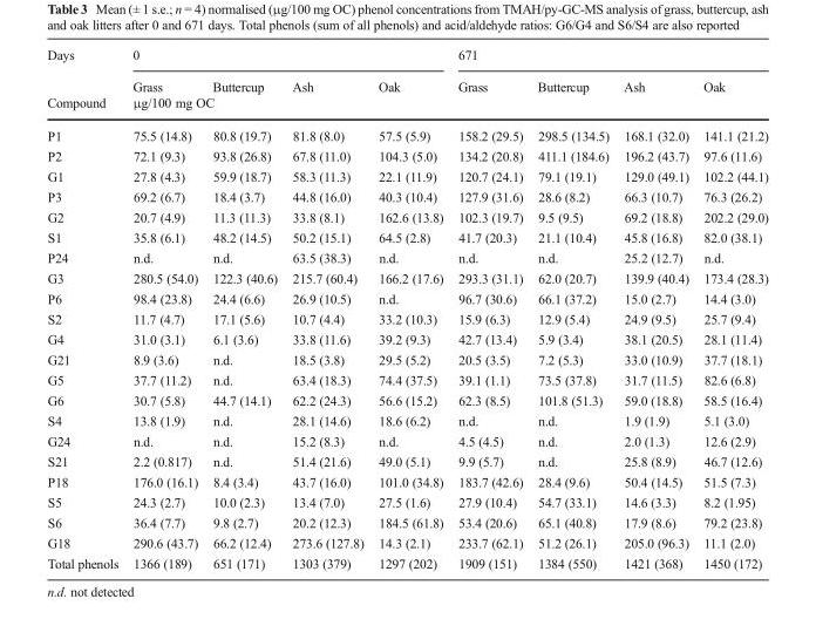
<table><thead><tr><td rowspan="3">Days Compound</td><td colspan="4">0</td><td colspan="4">671</td></tr><tr><td>Grass</td><td>Buttercup</td><td>Ash</td><td>Oak</td><td>Grass</td><td>Buttercup</td><td>Ash</td><td>Oak</td></tr><tr><td colspan="8">μg/100 mg OC</td></tr></thead><tbody><tr><td>P1</td><td>75.5 (14.8)</td><td>80.8 (19.7)</td><td>81.8 (8.0)</td><td>57.5 (5.9)</td><td>158.2 (29.5)</td><td>298.5 (134.5)</td><td>168.1 (32.0)</td><td>141.1 (21.2)</td></tr><tr><td>P2</td><td>72.1 (9.3)</td><td>93.8 (26.8)</td><td>67.8 (11.0)</td><td>104.3 (5.0)</td><td>134.2 (20.8)</td><td>411.1 (184.6)</td><td>196.2 (43.7)</td><td>97.6 (11.6)</td></tr><tr><td>G1</td><td>27.8 (4.3)</td><td>59.9 (18.7)</td><td>58.3 (11.3)</td><td>22.1 (11.9)</td><td>120.7 (24.1)</td><td>79.1 (19.1)</td><td>129.0 (49.1)</td><td>102.2 (44.1)</td></tr><tr><td>P3</td><td>69.2 (6.7)</td><td>18.4 (3.7)</td><td>44.8 (16.0)</td><td>40.3 (10.4)</td><td>127.9 (31.6)</td><td>28.6 (8.2)</td><td>66.3 (10.7)</td><td>76.3 (26.2)</td></tr><tr><td>G2</td><td>20.7 (4.9)</td><td>11.3 (11.3)</td><td>33.8 (8.1)</td><td>162.6 (13.8)</td><td>102.3 (19.7)</td><td>9.5 (9.5)</td><td>69.2 (18.8)</td><td>202.2 (29.0)</td></tr><tr><td>S1</td><td>35.8 (6.1)</td><td>48.2 (14.5)</td><td>50.2 (15.1)</td><td>64.5 (2.8)</td><td>41.7 (20.3)</td><td>21.1 (10.4)</td><td>45.8 (16.8)</td><td>82.0 (38.1)</td></tr><tr><td>P24</td><td>n.d.</td><td>n.d.</td><td>63.5 (38.3)</td><td>n.d.</td><td>n.d.</td><td>n.d.</td><td>25.2 (12.7)</td><td>n.d.</td></tr><tr><td>G3</td><td>280.5 (54.0)</td><td>122.3 (40.6)</td><td>215.7 (60.4)</td><td>166.2 (17.6)</td><td>293.3 (31.1)</td><td>62.0 (20.7)</td><td>139.9 (40.4)</td><td>173.4 (28.3)</td></tr><tr><td>P6</td><td>98.4 (23.8)</td><td>24.4 (6.6)</td><td>26.9 (10.5)</td><td>n.d.</td><td>96.7 (30.6)</td><td>66.1 (37.2)</td><td>15.0 (2.7)</td><td>14.4 (3.0)</td></tr><tr><td>S2</td><td>11.7 (4.7)</td><td>17.1 (5.6)</td><td>10.7 (4.4)</td><td>33.2 (10.3)</td><td>15.9 (6.3)</td><td>12.9 (5.4)</td><td>24.9 (9.5)</td><td>25.7 (9.4)</td></tr><tr><td>G4</td><td>31.0 (3.1)</td><td>6.1 (3.6)</td><td>33.8 (11.6)</td><td>39.2 (9.3)</td><td>42.7 (13.4)</td><td>5.9 (3.4)</td><td>38.1 (20.5)</td><td>28.1 (11.4)</td></tr><tr><td>G21</td><td>8.9 (3.6)</td><td>n.d.</td><td>18.5 (3.8)</td><td>29.5 (5.2)</td><td>20.5 (3.5)</td><td>7.2 (5.3)</td><td>33.0 (10.9)</td><td>37.7 (18.1)</td></tr><tr><td>G5</td><td>37.7 (11.2)</td><td>n.d.</td><td>63.4 (18.3)</td><td>74.4 (37.5)</td><td>39.1 (1.1)</td><td>73.5 (37.8)</td><td>31.7 (11.5)</td><td>82.6 (6.8)</td></tr><tr><td>G6</td><td>30.7 (5.8)</td><td>44.7 (14.1)</td><td>62.2 (24.3)</td><td>56.6 (15.2)</td><td>62.3 (8.5)</td><td>101.8 (51.3)</td><td>59.0 (18.8)</td><td>58.5 (16.4)</td></tr><tr><td>S4</td><td>13.8 (1.9)</td><td>n.d.</td><td>28.1 (14.6)</td><td>18.6 (6.2)</td><td>n.d.</td><td>n.d.</td><td>1.9 (1.9)</td><td>5.1 (3.0)</td></tr><tr><td>G24</td><td>n.d.</td><td>n.d.</td><td>15.2 (8.3)</td><td>n.d.</td><td>4.5 (4.5)</td><td>n.d.</td><td>2.0 (1.3)</td><td>12.6 (2.9)</td></tr><tr><td>S21</td><td>2.2 (0.817)</td><td>n.d.</td><td>51.4 (21.6)</td><td>49.0 (5.1)</td><td>9.9 (5.7)</td><td>n.d.</td><td>25.8 (8.9)</td><td>46.7 (12.6)</td></tr><tr><td>P18</td><td>176.0 (16.1)</td><td>8.4 (3.4)</td><td>43.7 (16.0)</td><td>101.0 (34.8)</td><td>183.7 (42.6)</td><td>28.4 (9.6)</td><td>50.4 (14.5)</td><td>51.5 (7.3)</td></tr><tr><td>S5</td><td>24.3 (2.7)</td><td>10.0 (2.3)</td><td>13.4 (7.0)</td><td>27.5 (1.6)</td><td>27.9 (10.4)</td><td>54.7 (33.1)</td><td>14.6 (3.3)</td><td>8.2 (1.95)</td></tr><tr><td>S6</td><td>36.4 (7.7)</td><td>9.8 (2.7)</td><td>20.2 (12.3)</td><td>184.5 (61.8)</td><td>53.4 (20.6)</td><td>65.1 (40.8)</td><td>17.9 (8.6)</td><td>79.2 (23.8)</td></tr><tr><td>G18</td><td>290.6 (43.7)</td><td>66.2 (12.4)</td><td>273.6 (127.8)</td><td>14.3 (2.1)</td><td>233.7 (62.1)</td><td>51.2 (26.1)</td><td>205.0 (96.3)</td><td>11.1 (2.0)</td></tr><tr><td>Total phenols</td><td>1366 (189)</td><td>651 (171)</td><td>1303 (379)</td><td>1297 (202)</td><td>1909 (151)</td><td>1384 (550)</td><td>1421 (368)</td><td>1450 (172)</td></tr></tbody></table>